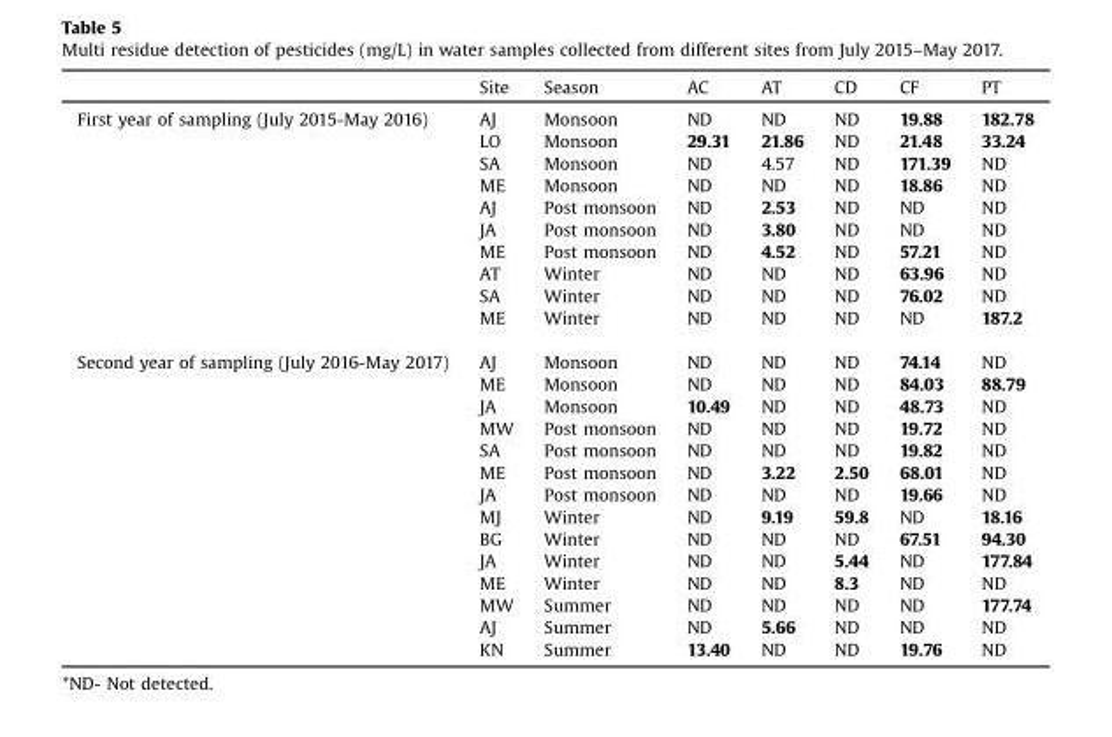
<table><thead><tr><td></td><td>Site</td><td>Season</td><td>AC</td><td>AT</td><td>CD</td><td>CF</td><td>PT</td></tr></thead><tbody><tr><td rowspan="10">First year of sampling (July 2015-May 2016)</td><td>AJ</td><td>Monsoon</td><td>ND</td><td>ND</td><td>ND</td><td>19.88</td><td>182.78</td></tr><tr><td>LO</td><td>Monsoon</td><td>29.31</td><td>21.86</td><td>ND</td><td>21.48</td><td>33.24</td></tr><tr><td>SA</td><td>Monsoon</td><td>ND</td><td>4.57</td><td>ND</td><td>171.39</td><td>ND</td></tr><tr><td>ME</td><td>Monsoon</td><td>ND</td><td>ND</td><td>ND</td><td>18.86</td><td>ND</td></tr><tr><td>AJ</td><td>Post monsoon</td><td>ND</td><td>2.53</td><td>ND</td><td>ND</td><td>ND</td></tr><tr><td>JA</td><td>Post monsoon</td><td>ND</td><td>3.80</td><td>ND</td><td>ND</td><td>ND</td></tr><tr><td>ME</td><td>Post monsoon</td><td>ND</td><td>4.52</td><td>ND</td><td>57.21</td><td>ND</td></tr><tr><td>AT</td><td>Winter</td><td>ND</td><td>ND</td><td>ND</td><td>63.96</td><td>ND</td></tr><tr><td>SA</td><td>Winter</td><td>ND</td><td>ND</td><td>ND</td><td>76.02</td><td>ND</td></tr><tr><td>ME</td><td>Winter</td><td>ND</td><td>ND</td><td>ND</td><td>ND</td><td>187.2</td></tr><tr><td rowspan="14">Second year of sampling (July 2016-May 2017)</td><td>AJ</td><td>Monsoon</td><td>ND</td><td>ND</td><td>ND</td><td>74.14</td><td>ND</td></tr><tr><td>ME</td><td>Monsoon</td><td>ND</td><td>ND</td><td>ND</td><td>84.03</td><td>88.79</td></tr><tr><td>JA</td><td>Monsoon</td><td>10.49</td><td>ND</td><td>ND</td><td>48.73</td><td>ND</td></tr><tr><td>MW</td><td>Post monsoon</td><td>ND</td><td>ND</td><td>ND</td><td>19.72</td><td>ND</td></tr><tr><td>SA</td><td>Post monsoon</td><td>ND</td><td>ND</td><td>ND</td><td>19.82</td><td>ND</td></tr><tr><td>ME</td><td>Post monsoon</td><td>ND</td><td>3.22</td><td>2.50</td><td>68.01</td><td>ND</td></tr><tr><td>JA</td><td>Post monsoon</td><td>ND</td><td>ND</td><td>ND</td><td>19.66</td><td>ND</td></tr><tr><td>MJ</td><td>Winter</td><td>ND</td><td>9.19</td><td>59.8</td><td>ND</td><td>18.16</td></tr><tr><td>BG</td><td>Winter</td><td>ND</td><td>ND</td><td>ND</td><td>67.51</td><td>94.30</td></tr><tr><td>JA</td><td>Winter</td><td>ND</td><td>ND</td><td>5.44</td><td>ND</td><td>177.84</td></tr><tr><td>ME</td><td>Winter</td><td>ND</td><td>ND</td><td>8.3</td><td>ND</td><td>ND</td></tr><tr><td>MW</td><td>Summer</td><td>ND</td><td>ND</td><td>ND</td><td>ND</td><td>177.74</td></tr><tr><td>AJ</td><td>Summer</td><td>ND</td><td>5.66</td><td>ND</td><td>ND</td><td>ND</td></tr><tr><td>KN</td><td>Summer</td><td>13.40</td><td>ND</td><td>ND</td><td>19.76</td><td>ND</td></tr></tbody></table>